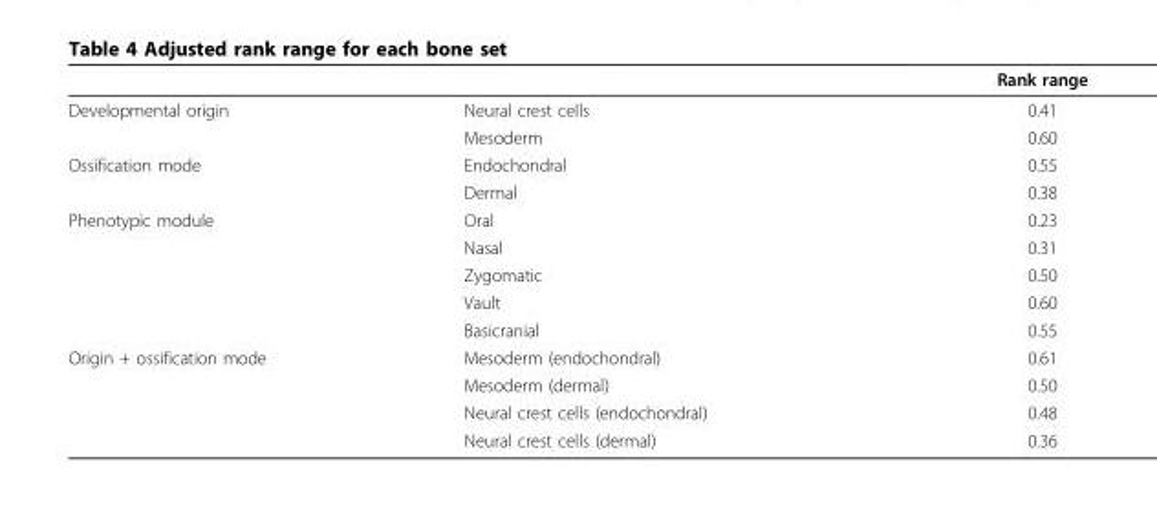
<table><thead><tr><td></td><td></td><td>Rank range</td></tr></thead><tbody><tr><td rowspan="2">Developmental origin</td><td>Neural crest cells</td><td>0.41</td></tr><tr><td>Mesoderm</td><td>0.60</td></tr><tr><td rowspan="2">Ossification mode</td><td>Endochondral</td><td>0.55</td></tr><tr><td>Dermal</td><td>0.38</td></tr><tr><td rowspan="5">Phenotypic module</td><td>Oral</td><td>0.23</td></tr><tr><td>Nasal</td><td>0.31</td></tr><tr><td>Zygomatic</td><td>0.50</td></tr><tr><td>Vault</td><td>0.60</td></tr><tr><td>Basicranial</td><td>0.55</td></tr><tr><td rowspan="4">Origin + ossification mode</td><td>Mesoderm (endochondral)</td><td>0.61</td></tr><tr><td>Mesoderm (dermal)</td><td>0.50</td></tr><tr><td>Neural crest cells (endochondral)</td><td>0.48</td></tr><tr><td>Neural crest cells (dermal)</td><td>0.36</td></tr></tbody></table>